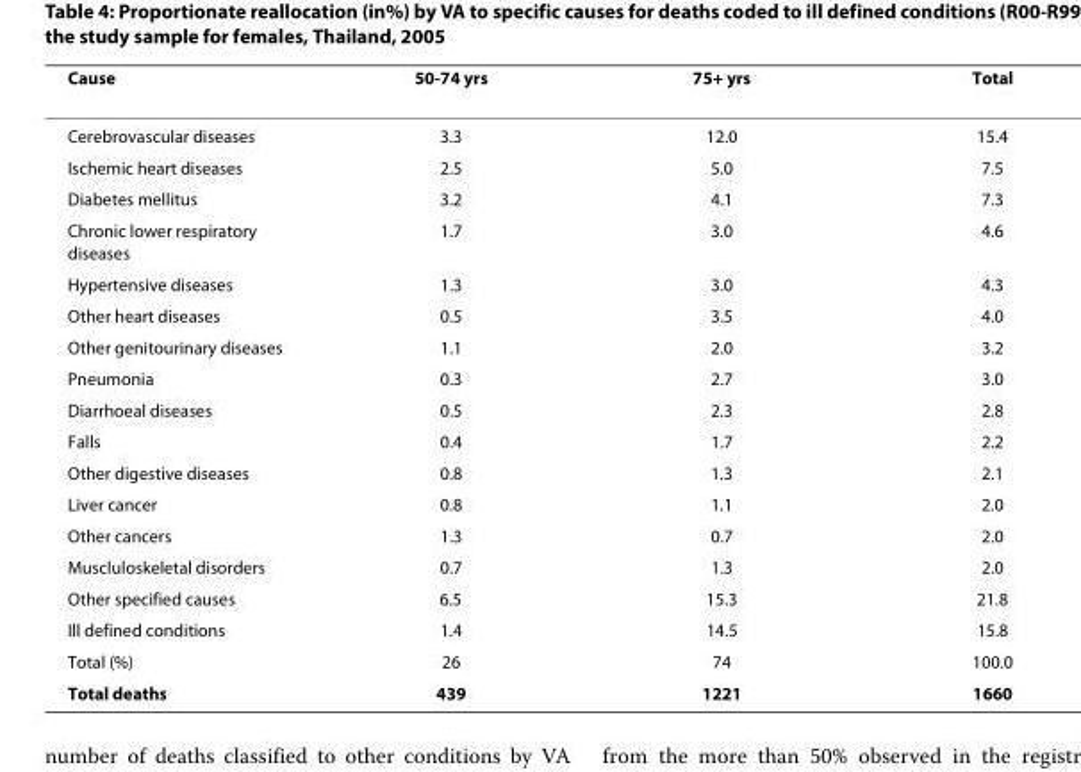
<table><thead><tr><td>Cause</td><td>50-74 yrs</td><td>75+ yrs</td><td>Total</td></tr></thead><tbody><tr><td>Cerebrovascular diseases</td><td>3.3</td><td>12.0</td><td>15.4</td></tr><tr><td>Ischemic heart diseases</td><td>2.5</td><td>5.0</td><td>7.5</td></tr><tr><td>Diabetes mellitus</td><td>3.2</td><td>4.1</td><td>7.3</td></tr><tr><td>Chronic lower respiratory diseases</td><td>1.7</td><td>3.0</td><td>4.6</td></tr><tr><td>Hypertensive diseases</td><td>1.3</td><td>3.0</td><td>4.3</td></tr><tr><td>Other heart diseases</td><td>0.5</td><td>3.5</td><td>4.0</td></tr><tr><td>Other genitourinary diseases</td><td>1.1</td><td>2.0</td><td>3.2</td></tr><tr><td>Pneumonia</td><td>0.3</td><td>2.7</td><td>3.0</td></tr><tr><td>Diarrhoeal diseases</td><td>0.5</td><td>2.3</td><td>2.8</td></tr><tr><td>Falls</td><td>0.4</td><td>1.7</td><td>2.2</td></tr><tr><td>Other digestive diseases</td><td>0.8</td><td>1.3</td><td>2.1</td></tr><tr><td>Liver cancer</td><td>0.8</td><td>1.1</td><td>2.0</td></tr><tr><td>Other cancers</td><td>1.3</td><td>0.7</td><td>2.0</td></tr><tr><td>Muscluloskeletal disorders</td><td>0.7</td><td>1.3</td><td>2.0</td></tr><tr><td>Other specified causes</td><td>6.5</td><td>15.3</td><td>21.8</td></tr><tr><td>Ill defined conditions</td><td>1.4</td><td>14.5</td><td>15.8</td></tr><tr><td>Total (%)</td><td>26</td><td>74</td><td>100.0</td></tr><tr><td>Total deaths</td><td>439</td><td>1221</td><td>1660</td></tr></tbody></table>